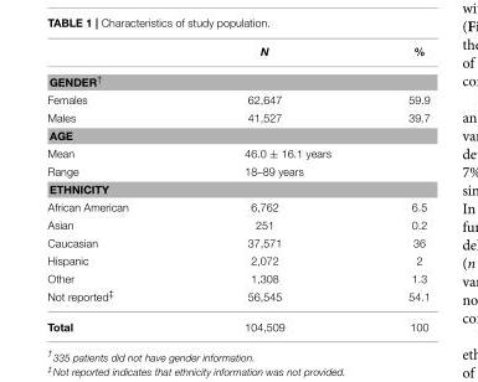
<table><thead><tr><td></td><td>N</td><td>%</td></tr></thead><tbody><tr><td colspan="3">GENDER<sup>†</sup></td></tr><tr><td>Females</td><td>62,647</td><td>59.9</td></tr><tr><td>Males</td><td>41,527</td><td>39.7</td></tr><tr><td colspan="3">AGE</td></tr><tr><td>Mean</td><td>46.0 ± 16.1 years</td><td></td></tr><tr><td>Range</td><td>18–89 years</td><td></td></tr><tr><td colspan="3">ETHNICITY</td></tr><tr><td>African American</td><td>6,762</td><td>6.5</td></tr><tr><td>Asian</td><td>251</td><td>0.2</td></tr><tr><td>Caucasian</td><td>37,571</td><td>36</td></tr><tr><td>Hispanic</td><td>2,072</td><td>2</td></tr><tr><td>Other</td><td>1,308</td><td>1.3</td></tr><tr><td>Not reported<sup>‡</sup></td><td>56,545</td><td>54.1</td></tr><tr><td>Total</td><td>104,509</td><td>100</td></tr></tbody></table>